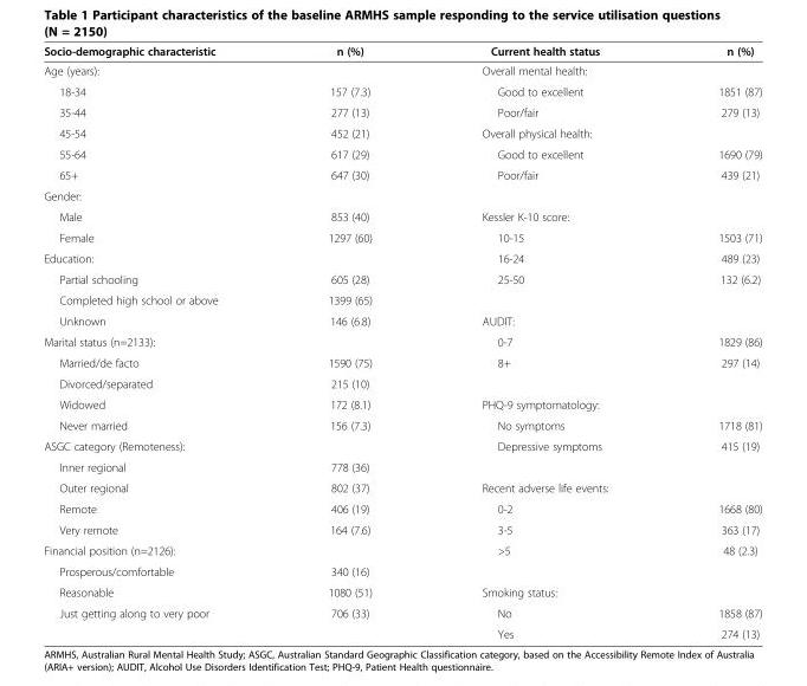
<table><thead><tr><td>Socio-demographic characteristic</td><td>n (%)</td><td>Current health status</td><td>n (%)</td></tr></thead><tbody><tr><td>Age (years):</td><td></td><td>Overall mental health:</td><td></td></tr><tr><td>18-34</td><td>157 (7.3)</td><td>Good to excellent</td><td>1851 (87)</td></tr><tr><td>35-44</td><td>277 (13)</td><td>Poor/fair</td><td>279 (13)</td></tr><tr><td>45-54</td><td>452 (21)</td><td>Overall physical health:</td><td></td></tr><tr><td>55-64</td><td>617 (29)</td><td>Good to excellent</td><td>1690 (79)</td></tr><tr><td>65+</td><td>647 (30)</td><td>Poor/fair</td><td>439 (21)</td></tr><tr><td colspan="4">Gender:</td></tr><tr><td>Male</td><td>853 (40)</td><td>Kessler K-10 score:</td><td></td></tr><tr><td>Female</td><td>1297 (60)</td><td>10-15</td><td>1503 (71)</td></tr><tr><td>Education:</td><td></td><td>16-24</td><td>489 (23)</td></tr><tr><td>Partial schooling</td><td>605 (28)</td><td>25-50</td><td>132 (6.2)</td></tr><tr><td>Completed high school or above</td><td>1399 (65)</td><td></td><td></td></tr><tr><td>Unknown</td><td>146 (6.8)</td><td>AUDIT:</td><td></td></tr><tr><td>Marital status (n=2133):</td><td></td><td>0-7</td><td>1829 (86)</td></tr><tr><td>Married/de facto</td><td>1590 (75)</td><td>8+</td><td>297 (14)</td></tr><tr><td>Divorced/separated</td><td>215 (10)</td><td></td><td></td></tr><tr><td>Widowed</td><td>172 (8.1)</td><td>PHQ-9 symptomatology:</td><td></td></tr><tr><td>Never married</td><td>156 (7.3)</td><td>No symptoms</td><td>1718 (81)</td></tr><tr><td>ASGC category (Remoteness):</td><td></td><td>Depressive symptoms</td><td>415 (19)</td></tr><tr><td>Inner regional</td><td>778 (36)</td><td></td><td></td></tr><tr><td>Outer regional</td><td>802 (37)</td><td>Recent adverse life events:</td><td></td></tr><tr><td>Remote</td><td>406 (19)</td><td>0-2</td><td>1668 (80)</td></tr><tr><td>Very remote</td><td>164 (7.6)</td><td>3-5</td><td>363 (17)</td></tr><tr><td>Financial position (n=2126):</td><td></td><td>&gt;5</td><td>48 (2.3)</td></tr><tr><td>Prosperous/comfortable</td><td>340 (16)</td><td></td><td></td></tr><tr><td>Reasonable</td><td>1080 (51)</td><td>Smoking status:</td><td></td></tr><tr><td rowspan="2">Just getting along to very poor</td><td>706 (33)</td><td>No</td><td>1858 (87)</td></tr><tr><td></td><td>Yes</td><td>274 (13)</td></tr></tbody></table>